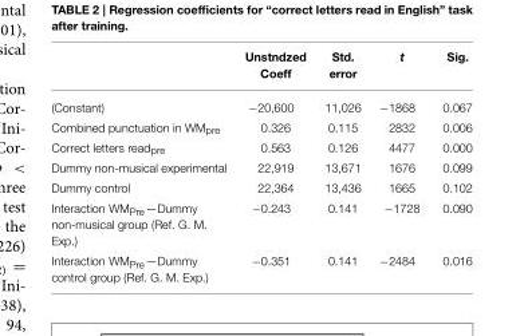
<table><thead><tr><td></td><td>Unstndzed Coeff</td><td>Std. error</td><td>t</td><td>Sig.</td></tr></thead><tbody><tr><td>(Constant)</td><td>−20,600</td><td>11,026</td><td>−1868</td><td>0.067</td></tr><tr><td>Combined punctuation in WM<sub>pre</sub></td><td>0.326</td><td>0.115</td><td>2832</td><td>0.006</td></tr><tr><td>Correct letters read<sub>pre</sub></td><td>0.563</td><td>0.126</td><td>4477</td><td>0.000</td></tr><tr><td>Dummy non-musical experimental</td><td>22,919</td><td>13,671</td><td>1676</td><td>0.099</td></tr><tr><td>Dummy control</td><td>22,364</td><td>13,436</td><td>1665</td><td>0.102</td></tr><tr><td>Interaction WM<sub>Pre</sub>—Dummy non-musical group (Ref. G. M. Exp.)</td><td>−0.243</td><td>0.141</td><td>−1728</td><td>0.090</td></tr><tr><td>Interaction WM<sub>Pre</sub>—Dummy control group (Ref. G. M. Exp.)</td><td>−0.351</td><td>0.141</td><td>−2484</td><td>0.016</td></tr></tbody></table>